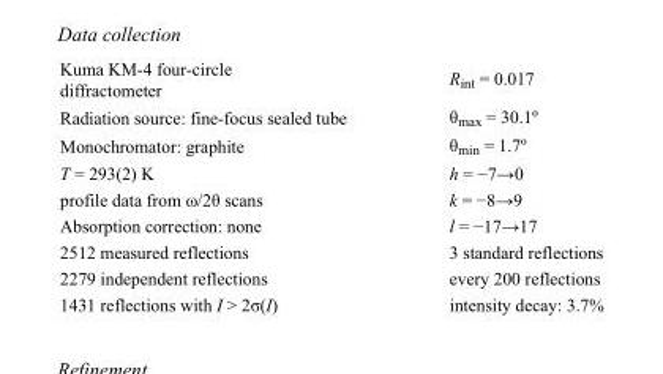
<table><tbody><tr><td>Kuma KM-4 four-circle diffractometer</td><td>R<sub>int</sub> = 0.017</td></tr><tr><td>Radiation source: fine-focus sealed tube</td><td>θ<sub>max</sub> = 30.1º</td></tr><tr><td>Monochromator: graphite</td><td>θ<sub>min</sub> = 1.7º</td></tr><tr><td>T = 293(2) K</td><td>h = −7→0</td></tr><tr><td>profile data from ω/2θ scans</td><td>k = −8→9</td></tr><tr><td>Absorption correction: none</td><td>l = −17→17</td></tr><tr><td>2512 measured reflections</td><td>3 standard reflections</td></tr><tr><td>2279 independent reflections</td><td>every 200 reflections</td></tr><tr><td>1431 reflections with I &gt; 2σ(I)</td><td>intensity decay: 3.7%</td></tr></tbody></table>